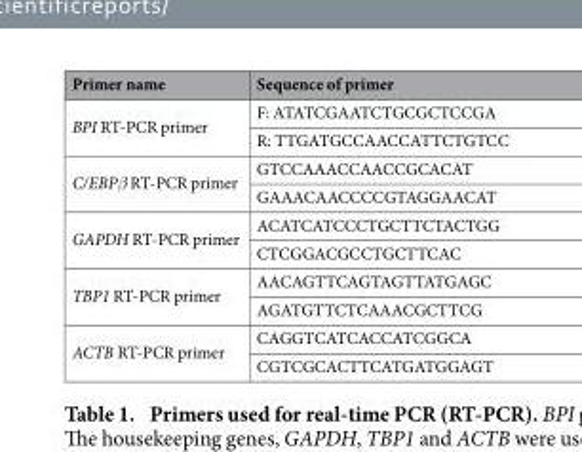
<table><thead><tr><td>Primer name</td><td>Sequence of primer</td></tr></thead><tbody><tr><td rowspan="2">BPI RT-PCR primer</td><td>F: ATATCGAATCTGCGCTCCGA</td></tr><tr><td>R: TTGATGCCAACCATTCTGTCC</td></tr><tr><td rowspan="2">C/EBPβ RT-PCR primer</td><td>GTCCAAACCAACCGCACAT</td></tr><tr><td>GAAACAACCCCGTAGGAACAT</td></tr><tr><td rowspan="2">GAPDH RT-PCR primer</td><td>ACATCATCCCTGCTTCTACTGG</td></tr><tr><td>CTCGGACGCCTGCTTCAC</td></tr><tr><td rowspan="2">TBP1 RT-PCR primer</td><td>AACAGTTCAGTAGTTATGAGC</td></tr><tr><td>AGATGTTCTCAAACGCTTCG</td></tr><tr><td rowspan="2">ACTB RT-PCR primer</td><td>CAGGTCATCACCATCGGCA</td></tr><tr><td>CGTCGCACTTCATGATGGAGT</td></tr></tbody></table>